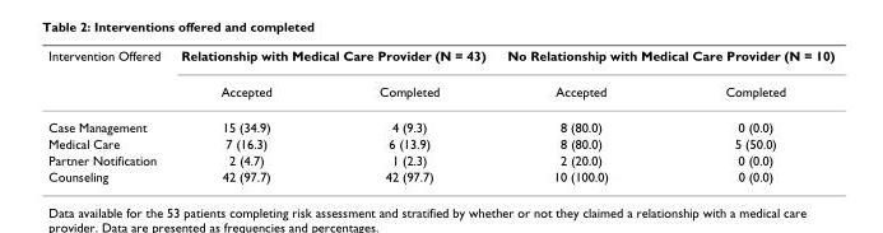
<table><thead><tr><td rowspan="2">Intervention Offered</td><td colspan="2">Relationship with Medical Care Provider (N = 43)</td><td colspan="2">No Relationship with Medical Care Provider (N = 10)</td></tr><tr><td>Accepted</td><td>Completed</td><td>Accepted</td><td>Completed</td></tr></thead><tbody><tr><td>Case Management</td><td>15 (34.9)</td><td>4 (9.3)</td><td>8 (80.0)</td><td>0 (0.0)</td></tr><tr><td>Medical Care</td><td>7 (16.3)</td><td>6 (13.9)</td><td>8 (80.0)</td><td>5 (50.0)</td></tr><tr><td>Partner Notification</td><td>2 (4.7)</td><td>1 (2.3)</td><td>2 (20.0)</td><td>0 (0.0)</td></tr><tr><td>Counseling</td><td>42 (97.7)</td><td>42 (97.7)</td><td>10 (100.0)</td><td>0 (0.0)</td></tr></tbody></table>